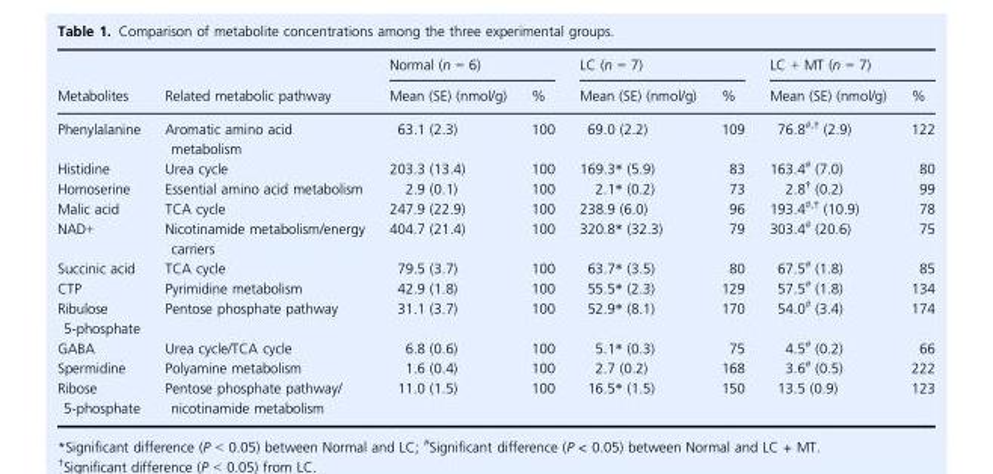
<table><thead><tr><td rowspan="2">Metabolites</td><td rowspan="2">Related metabolic pathway</td><td colspan="2">Normal (n = 6)</td><td colspan="2">LC (n = 7)</td><td colspan="2">LC + MT (n = 7)</td></tr><tr><td>Mean (SE) (nmol/g)</td><td>%</td><td>Mean (SE) (nmol/g)</td><td>%</td><td>Mean (SE) (nmol/g)</td><td>%</td></tr></thead><tbody><tr><td>Phenylalanine</td><td>Aromatic amino acid metabolism</td><td>63.1 (2.3)</td><td>100</td><td>69.0 (2.2)</td><td>109</td><td>76.8#<sup>,</sup>† (2.9)</td><td>122</td></tr><tr><td>Histidine</td><td>Urea cycle</td><td>203.3 (13.4)</td><td>100</td><td>169.3* (5.9)</td><td>83</td><td>163.4# (7.0)</td><td>80</td></tr><tr><td>Homoserine</td><td>Essential amino acid metabolism</td><td>2.9 (0.1)</td><td>100</td><td>2.1* (0.2)</td><td>73</td><td>2.8† (0.2)</td><td>99</td></tr><tr><td>Malic acid</td><td>TCA cycle</td><td>247.9 (22.9)</td><td>100</td><td>238.9 (6.0)</td><td>96</td><td>193.4#<sup>,</sup>† (10.9)</td><td>78</td></tr><tr><td>NAD+</td><td>Nicotinamide metabolism/energy carriers</td><td>404.7 (21.4)</td><td>100</td><td>320.8* (32.3)</td><td>79</td><td>303.4# (20.6)</td><td>75</td></tr><tr><td>Succinic acid</td><td>TCA cycle</td><td>79.5 (3.7)</td><td>100</td><td>63.7* (3.5)</td><td>80</td><td>67.5# (1.8)</td><td>85</td></tr><tr><td>CTP</td><td>Pyrimidine metabolism</td><td>42.9 (1.8)</td><td>100</td><td>55.5* (2.3)</td><td>129</td><td>57.5# (1.8)</td><td>134</td></tr><tr><td>Ribulose 5-phosphate</td><td>Pentose phosphate pathway</td><td>31.1 (3.7)</td><td>100</td><td>52.9* (8.1)</td><td>170</td><td>54.0# (3.4)</td><td>174</td></tr><tr><td>GABA</td><td>Urea cycle/TCA cycle</td><td>6.8 (0.6)</td><td>100</td><td>5.1* (0.3)</td><td>75</td><td>4.5# (0.2)</td><td>66</td></tr><tr><td>Spermidine</td><td>Polyamine metabolism</td><td>1.6 (0.4)</td><td>100</td><td>2.7 (0.2)</td><td>168</td><td>3.6# (0.5)</td><td>222</td></tr><tr><td>Ribose 5-phosphate</td><td>Pentose phosphate pathway/ nicotinamide metabolism</td><td>11.0 (1.5)</td><td>100</td><td>16.5* (1.5)</td><td>150</td><td>13.5 (0.9)</td><td>123</td></tr></tbody></table>